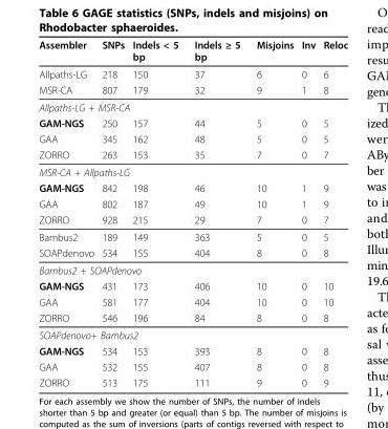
<table><thead><tr><td>Assembler</td><td>SNPs</td><td>Indels &lt; 5 bp</td><td>Indels ≥ 5 bp</td><td>Misjoins</td><td>Inv</td><td>Reloc</td></tr></thead><tbody><tr><td>Allpaths-LG</td><td>218</td><td>150</td><td>37</td><td>6</td><td>0</td><td>6</td></tr><tr><td>MSR-CA</td><td>807</td><td>179</td><td>32</td><td>9</td><td>1</td><td>8</td></tr><tr><td colspan="7">Allpaths-LG + MSR-CA</td></tr><tr><td>GAM-NGS</td><td>250</td><td>157</td><td>44</td><td>5</td><td>0</td><td>5</td></tr><tr><td>GAA</td><td>345</td><td>162</td><td>48</td><td>5</td><td>0</td><td>5</td></tr><tr><td>ZORRO</td><td>263</td><td>153</td><td>35</td><td>7</td><td>0</td><td>7</td></tr><tr><td colspan="7">MSR-CA + Allpaths-LG</td></tr><tr><td>GAM-NGS</td><td>842</td><td>198</td><td>46</td><td>10</td><td>1</td><td>9</td></tr><tr><td>GAA</td><td>802</td><td>187</td><td>49</td><td>10</td><td>1</td><td>9</td></tr><tr><td>ZORRO</td><td>928</td><td>215</td><td>29</td><td>7</td><td>0</td><td>7</td></tr><tr><td>Bambus2</td><td>189</td><td>149</td><td>363</td><td>5</td><td>0</td><td>5</td></tr><tr><td>SOAPdenovo</td><td>534</td><td>155</td><td>404</td><td>8</td><td>0</td><td>8</td></tr><tr><td colspan="7">Bambus2 + SOAPdenovo</td></tr><tr><td>GAM-NGS</td><td>431</td><td>173</td><td>406</td><td>10</td><td>0</td><td>10</td></tr><tr><td>GAA</td><td>581</td><td>177</td><td>404</td><td>10</td><td>0</td><td>10</td></tr><tr><td>ZORRO</td><td>546</td><td>196</td><td>84</td><td>8</td><td>0</td><td>8</td></tr><tr><td colspan="7">SOAPdenovo+ Bambus2</td></tr><tr><td>GAM-NGS</td><td>534</td><td>153</td><td>393</td><td>8</td><td>0</td><td>8</td></tr><tr><td>GAA</td><td>532</td><td>155</td><td>407</td><td>8</td><td>0</td><td>8</td></tr><tr><td>ZORRO</td><td>513</td><td>175</td><td>111</td><td>9</td><td>0</td><td>9</td></tr></tbody></table>